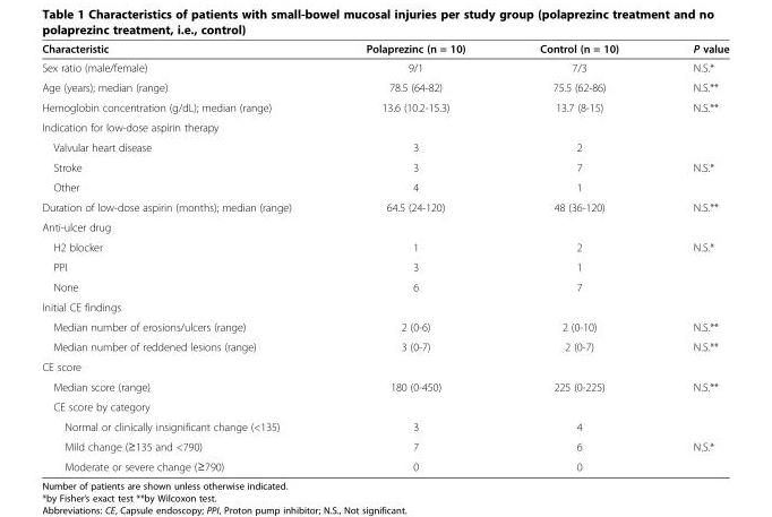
<table><thead><tr><td>Characteristic</td><td>Polaprezinc (n = 10)</td><td>Control (n = 10)</td><td>P value</td></tr></thead><tbody><tr><td>Sex ratio (male/female)</td><td>9/1</td><td>7/3</td><td>N.S.*</td></tr><tr><td>Age (years); median (range)</td><td>78.5 (64-82)</td><td>75.5 (62-86)</td><td>N.S.**</td></tr><tr><td>Hemoglobin concentration (g/dL); median (range)</td><td>13.6 (10.2-15.3)</td><td>13.7 (8-15)</td><td>N.S.**</td></tr><tr><td colspan="4">Indication for low-dose aspirin therapy</td></tr><tr><td>Valvular heart disease</td><td>3</td><td>2</td><td></td></tr><tr><td>Stroke</td><td>3</td><td>7</td><td>N.S.*</td></tr><tr><td>Other</td><td>4</td><td>1</td><td></td></tr><tr><td>Duration of low-dose aspirin (months); median (range)</td><td>64.5 (24-120)</td><td>48 (36-120)</td><td>N.S.**</td></tr><tr><td colspan="4">Anti-ulcer drug</td></tr><tr><td>H2 blocker</td><td>1</td><td>2</td><td>N.S.*</td></tr><tr><td>PPI</td><td>3</td><td>1</td><td></td></tr><tr><td>None</td><td>6</td><td>7</td><td></td></tr><tr><td colspan="4">Initial CE findings</td></tr><tr><td>Median number of erosions/ulcers (range)</td><td>2 (0-6)</td><td>2 (0-10)</td><td>N.S.**</td></tr><tr><td>Median number of reddened lesions (range)</td><td>3 (0-7)</td><td>2 (0-7)</td><td>N.S.**</td></tr><tr><td colspan="4">CE score</td></tr><tr><td>Median score (range)</td><td>180 (0-450)</td><td>225 (0-225)</td><td>N.S.**</td></tr><tr><td colspan="4">CE score by category</td></tr><tr><td>Normal or clinically insignificant change (&lt;135)</td><td>3</td><td>4</td><td></td></tr><tr><td>Mild change (≥135 and &lt;790)</td><td>7</td><td>6</td><td>N.S.*</td></tr><tr><td>Moderate or severe change (≥790)</td><td>0</td><td>0</td><td></td></tr></tbody></table>